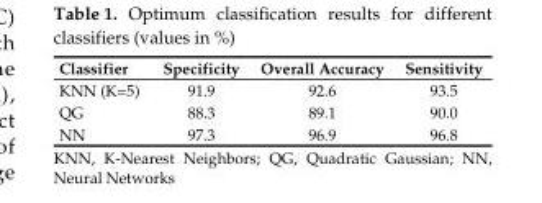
<table><thead><tr><td>Classifier</td><td>Specificity</td><td>Overall Accuracy</td><td>Sensitivity</td></tr></thead><tbody><tr><td>KNN (K=5)</td><td>91.9</td><td>92.6</td><td>93.5</td></tr><tr><td>QG</td><td>88.3</td><td>89.1</td><td>90.0</td></tr><tr><td>NN</td><td>97.3</td><td>96.9</td><td>96.8</td></tr></tbody></table>